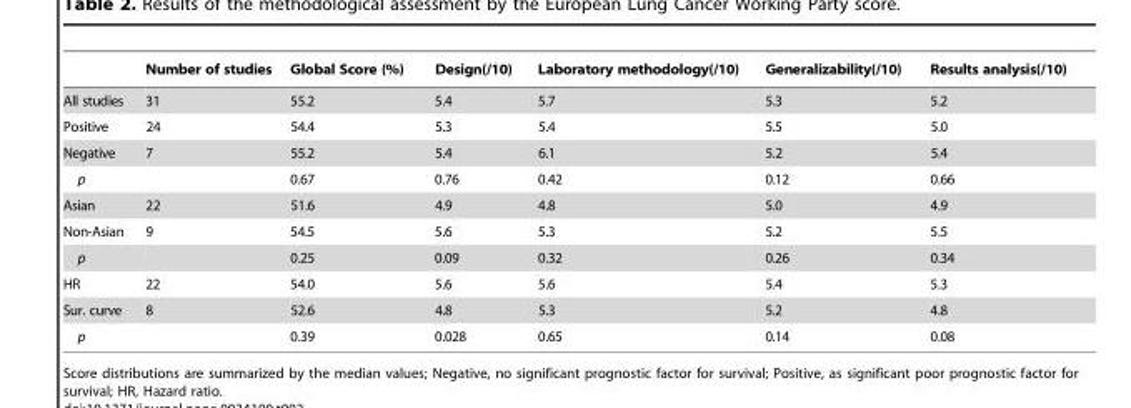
<table><thead><tr><td></td><td>Number of studies</td><td>Global Score (%)</td><td>Design(/10)</td><td>Laboratory methodology(/10)</td><td>Generalizability(/10)</td><td>Results analysis(/10)</td></tr></thead><tbody><tr><td>All studies</td><td>31</td><td>55.2</td><td>5.4</td><td>5.7</td><td>5.3</td><td>5.2</td></tr><tr><td>Positive</td><td>24</td><td>54.4</td><td>5.3</td><td>5.4</td><td>5.5</td><td>5.0</td></tr><tr><td>Negative</td><td>7</td><td>55.2</td><td>5.4</td><td>6.1</td><td>5.2</td><td>5.4</td></tr><tr><td>p</td><td></td><td>0.67</td><td>0.76</td><td>0.42</td><td>0.12</td><td>0.66</td></tr><tr><td>Asian</td><td>22</td><td>51.6</td><td>4.9</td><td>4.8</td><td>5.0</td><td>4.9</td></tr><tr><td>Non-Asian</td><td>9</td><td>54.5</td><td>5.6</td><td>5.3</td><td>5.2</td><td>5.5</td></tr><tr><td>p</td><td></td><td>0.25</td><td>0.09</td><td>0.32</td><td>0.26</td><td>0.34</td></tr><tr><td>HR</td><td>22</td><td>54.0</td><td>5.6</td><td>5.6</td><td>5.4</td><td>5.3</td></tr><tr><td>Sur. curve</td><td>8</td><td>52.6</td><td>4.8</td><td>5.3</td><td>5.2</td><td>4.8</td></tr><tr><td>p</td><td></td><td>0.39</td><td>0.028</td><td>0.65</td><td>0.14</td><td>0.08</td></tr></tbody></table>